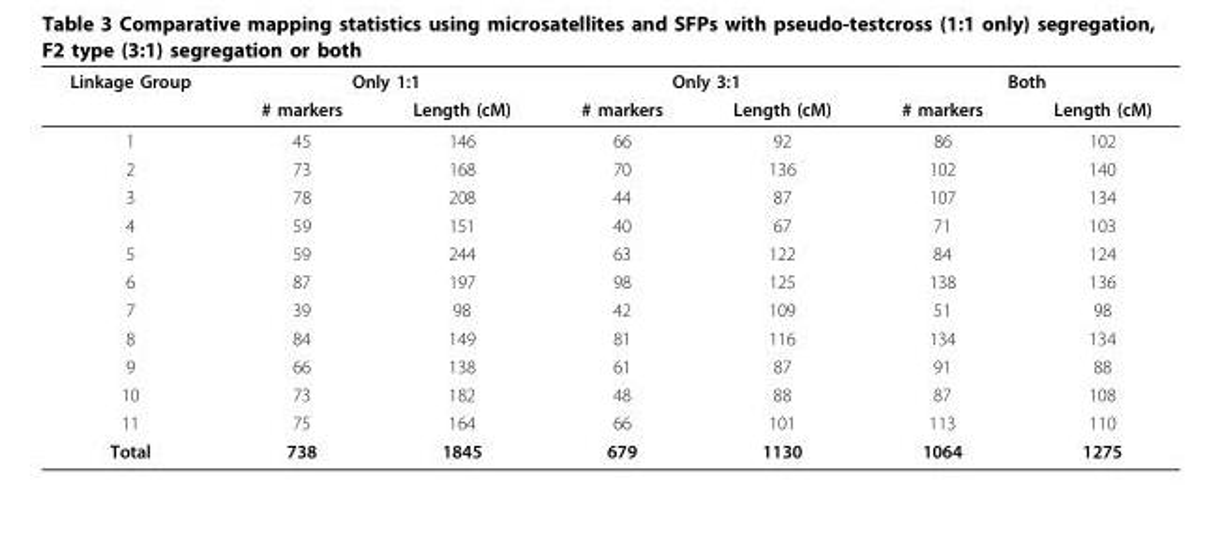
<table><thead><tr><td rowspan="2">Linkage Group</td><td colspan="2">Only 1:1</td><td colspan="2">Only 3:1</td><td colspan="2">Both</td></tr><tr><td># markers</td><td>Length (cM)</td><td># markers</td><td>Length (cM)</td><td># markers</td><td>Length (cM)</td></tr></thead><tbody><tr><td>1</td><td>45</td><td>146</td><td>66</td><td>92</td><td>86</td><td>102</td></tr><tr><td>2</td><td>73</td><td>168</td><td>70</td><td>136</td><td>102</td><td>140</td></tr><tr><td>3</td><td>78</td><td>208</td><td>44</td><td>87</td><td>107</td><td>134</td></tr><tr><td>4</td><td>59</td><td>151</td><td>40</td><td>67</td><td>71</td><td>103</td></tr><tr><td>5</td><td>59</td><td>244</td><td>63</td><td>122</td><td>84</td><td>124</td></tr><tr><td>6</td><td>87</td><td>197</td><td>98</td><td>125</td><td>138</td><td>136</td></tr><tr><td>7</td><td>39</td><td>98</td><td>42</td><td>109</td><td>51</td><td>98</td></tr><tr><td>8</td><td>84</td><td>149</td><td>81</td><td>116</td><td>134</td><td>134</td></tr><tr><td>9</td><td>66</td><td>138</td><td>61</td><td>87</td><td>91</td><td>88</td></tr><tr><td>10</td><td>73</td><td>182</td><td>48</td><td>88</td><td>87</td><td>108</td></tr><tr><td>11</td><td>75</td><td>164</td><td>66</td><td>101</td><td>113</td><td>110</td></tr><tr><td>Total</td><td>738</td><td>1845</td><td>679</td><td>1130</td><td>1064</td><td>1275</td></tr></tbody></table>